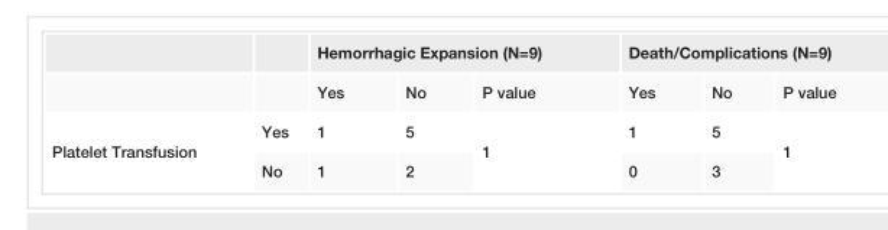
<table><thead><tr><td rowspan="2"></td><td rowspan="2"></td><td colspan="3">Hemorrhagic Expansion (N=9)</td><td colspan="3">Death/Complications (N=9)</td></tr><tr><td>Yes</td><td>No</td><td>P value</td><td>Yes</td><td>No</td><td>P value</td></tr></thead><tbody><tr><td rowspan="2">Platelet Transfusion</td><td>Yes</td><td>1</td><td>5</td><td rowspan="2">1</td><td>1</td><td>5</td><td rowspan="2">1</td></tr><tr><td>No</td><td>1</td><td>2</td><td>0</td><td>3</td></tr></tbody></table>